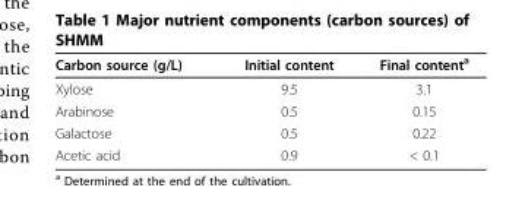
<table><thead><tr><td>Carbon source (g/L)</td><td>Initial content</td><td>Final content<sup>a</sup></td></tr></thead><tbody><tr><td>Xylose</td><td>9.5</td><td>3.1</td></tr><tr><td>Arabinose</td><td>0.5</td><td>0.15</td></tr><tr><td>Galactose</td><td>0.5</td><td>0.22</td></tr><tr><td>Acetic acid</td><td>0.9</td><td>&lt; 0.1</td></tr></tbody></table>